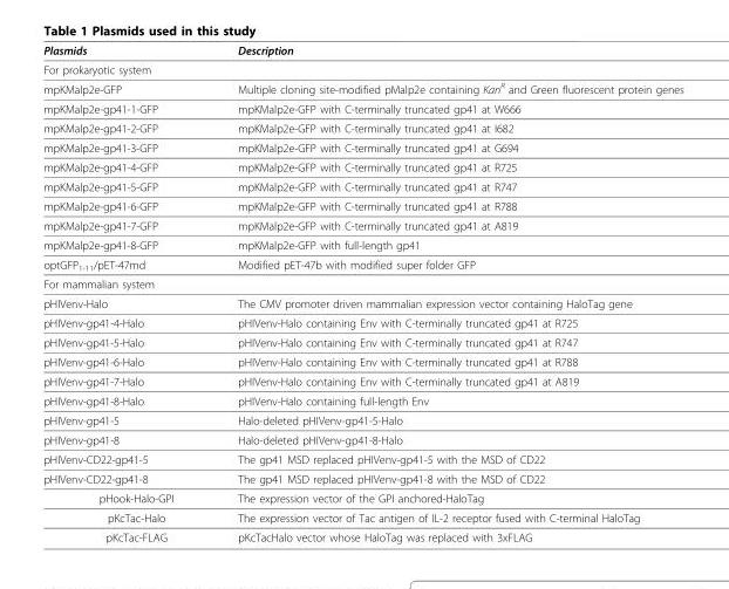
<table><thead><tr><td>Plasmids</td><td>Description</td></tr></thead><tbody><tr><td colspan="2">For prokaryotic system</td></tr><tr><td>mpKMalp2e-GFP</td><td>Multiple cloning site-modified pMalp2e containing Kan<sup>R</sup> and Green fluorescent protein genes</td></tr><tr><td>mpKMalp2e-gp41-1-GFP</td><td>mpKMalp2e-GFP with C-terminally truncated gp41 at W666</td></tr><tr><td>mpKMalp2e-gp41-2-GFP</td><td>mpKMalp2e-GFP with C-terminally truncated gp41 at I682</td></tr><tr><td>mpKMalp2e-gp41-3-GFP</td><td>mpKMalp2e-GFP with C-terminally truncated gp41 at G694</td></tr><tr><td>mpKMalp2e-gp41-4-GFP</td><td>mpKMalp2e-GFP with C-terminally truncated gp41 at R725</td></tr><tr><td>mpKMalp2e-gp41-5-GFP</td><td>mpKMalp2e-GFP with C-terminally truncated gp41 at R747</td></tr><tr><td>mpKMalp2e-gp41-6-GFP</td><td>mpKMalp2e-GFP with C-terminally truncated gp41 at R788</td></tr><tr><td>mpKMalp2e-gp41-7-GFP</td><td>mpKMalp2e-GFP with C-terminally truncated gp41 at A819</td></tr><tr><td>mpKMalp2e-gp41-8-GFP</td><td>mpKMalp2e-GFP with full-length gp41</td></tr><tr><td>optGFP<sub>1-11</sub>/pET-47md</td><td>Modified pET-47b with modified super folder GFP</td></tr><tr><td colspan="2">For mammalian system</td></tr><tr><td>pHIVenv-Halo</td><td>The CMV promoter driven mammalian expression vector containing HaloTag gene</td></tr><tr><td>pHIVenv-gp41-4-Halo</td><td>pHIVenv-Halo containing Env with C-terminally truncated gp41 at R725</td></tr><tr><td>pHIVenv-gp41-5-Halo</td><td>pHIVenv-Halo containing Env with C-terminally truncated gp41 at R747</td></tr><tr><td>pHIVenv-gp41-6-Halo</td><td>pHIVenv-Halo containing Env with C-terminally truncated gp41 at R788</td></tr><tr><td>pHIVenv-gp41-7-Halo</td><td>pHIVenv-Halo containing Env with C-terminally truncated gp41 at A819</td></tr><tr><td>pHIVenv-gp41-8-Halo</td><td>pHIVenv-Halo containing full-length Env</td></tr><tr><td>pHIVenv-gp41-5</td><td>Halo-deleted pHIVenv-gp41-5-Halo</td></tr><tr><td>pHIVenv-gp41-8</td><td>Halo-deleted pHIVenv-gp41-8-Halo</td></tr><tr><td>pHIVenv-CD22-gp41-5</td><td>The gp41 MSD replaced pHIVenv-gp41-5 with the MSD of CD22</td></tr><tr><td>pHIVenv-CD22-gp41-8</td><td>The gp41 MSD replaced pHIVenv-gp41-8 with the MSD of CD22</td></tr><tr><td>pHook-Halo-GPI</td><td>The expression vector of the GPI anchored-HaloTag</td></tr><tr><td>pKcTac-Halo</td><td>The expression vector of Tac antigen of IL-2 receptor fused with C-terminal HaloTag</td></tr><tr><td>pKcTac-FLAG</td><td>pKcTacHalo vector whose HaloTag was replaced with 3xFLAG</td></tr></tbody></table>